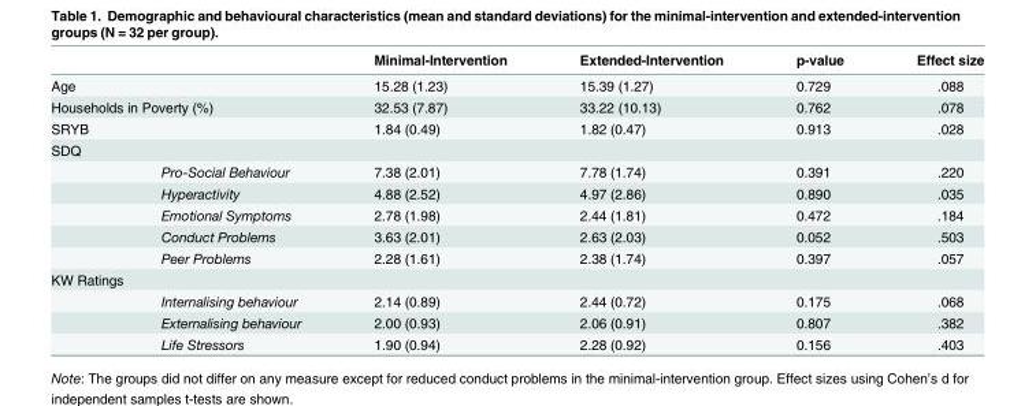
<table><thead><tr><td></td><td></td><td>Minimal-Intervention</td><td>Extended-Intervention</td><td>p-value</td><td>Effect size</td></tr></thead><tbody><tr><td>Age</td><td></td><td>15.28 (1.23)</td><td>15.39 (1.27)</td><td>0.729</td><td>.088</td></tr><tr><td colspan="2">Households in Poverty (%)</td><td>32.53 (7.87)</td><td>33.22 (10.13)</td><td>0.762</td><td>.078</td></tr><tr><td>SRYB</td><td></td><td>1.84 (0.49)</td><td>1.82 (0.47)</td><td>0.913</td><td>.028</td></tr><tr><td colspan="6">SDQ</td></tr><tr><td></td><td>Pro-Social Behaviour</td><td>7.38 (2.01)</td><td>7.78 (1.74)</td><td>0.391</td><td>.220</td></tr><tr><td></td><td>Hyperactivity</td><td>4.88 (2.52)</td><td>4.97 (2.86)</td><td>0.890</td><td>.035</td></tr><tr><td></td><td>Emotional Symptoms</td><td>2.78 (1.98)</td><td>2.44 (1.81)</td><td>0.472</td><td>.184</td></tr><tr><td></td><td>Conduct Problems</td><td>3.63 (2.01)</td><td>2.63 (2.03)</td><td>0.052</td><td>.503</td></tr><tr><td></td><td>Peer Problems</td><td>2.28 (1.61)</td><td>2.38 (1.74)</td><td>0.397</td><td>.057</td></tr><tr><td colspan="6">KW Ratings</td></tr><tr><td></td><td>Internalising behaviour</td><td>2.14 (0.89)</td><td>2.44 (0.72)</td><td>0.175</td><td>.068</td></tr><tr><td></td><td>Externalising behaviour</td><td>2.00 (0.93)</td><td>2.06 (0.91)</td><td>0.807</td><td>.382</td></tr><tr><td></td><td>Life Stressors</td><td>1.90 (0.94)</td><td>2.28 (0.92)</td><td>0.156</td><td>.403</td></tr></tbody></table>